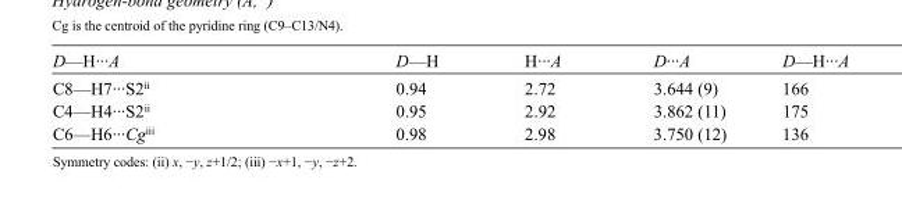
<table><tbody><tr><td>D—H···A</td><td>D—H</td><td>H···A</td><td>D···A</td><td>D—H···A</td></tr><tr><td>C8—H7···S2<sup>ii</sup></td><td>0.94</td><td>2.72</td><td>3.644 (9)</td><td>166</td></tr><tr><td>C4—H4···S2<sup>ii</sup></td><td>0.95</td><td>2.92</td><td>3.862 (11)</td><td>175</td></tr><tr><td>C6—H6···Cg<sup>iii</sup></td><td>0.98</td><td>2.98</td><td>3.750 (12)</td><td>136</td></tr></tbody></table>